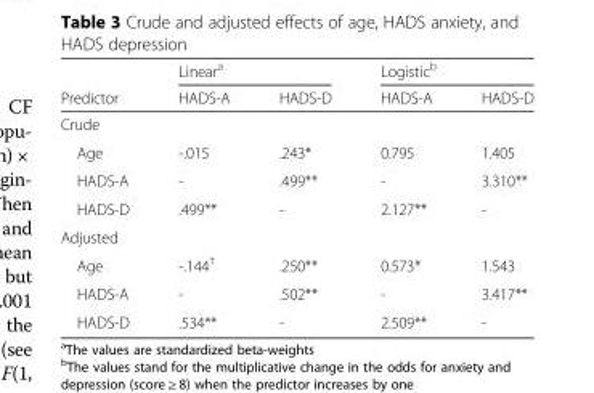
<table><thead><tr><td rowspan="2">Predictor</td><td colspan="2">Linear<sup>a</sup></td><td colspan="2">Logistic<sup>b</sup></td></tr><tr><td>HADS-A</td><td>HADS-D</td><td>HADS-A</td><td>HADS-D</td></tr></thead><tbody><tr><td colspan="5">Crude</td></tr><tr><td>Age</td><td>-.015</td><td>.243*</td><td>0.795</td><td>1.405</td></tr><tr><td>HADS-A</td><td>-</td><td>.499**</td><td>-</td><td>3.310**</td></tr><tr><td>HADS-D</td><td>.499**</td><td>-</td><td>2.127**</td><td>-</td></tr><tr><td colspan="5">Adjusted</td></tr><tr><td>Age</td><td>-.144<sup>†</sup></td><td>.250**</td><td>0.573*</td><td>1.543</td></tr><tr><td>HADS-A</td><td>-</td><td>.502**</td><td>-</td><td>3.417**</td></tr><tr><td>HADS-D</td><td>.534**</td><td>-</td><td>2.509**</td><td>-</td></tr></tbody></table>